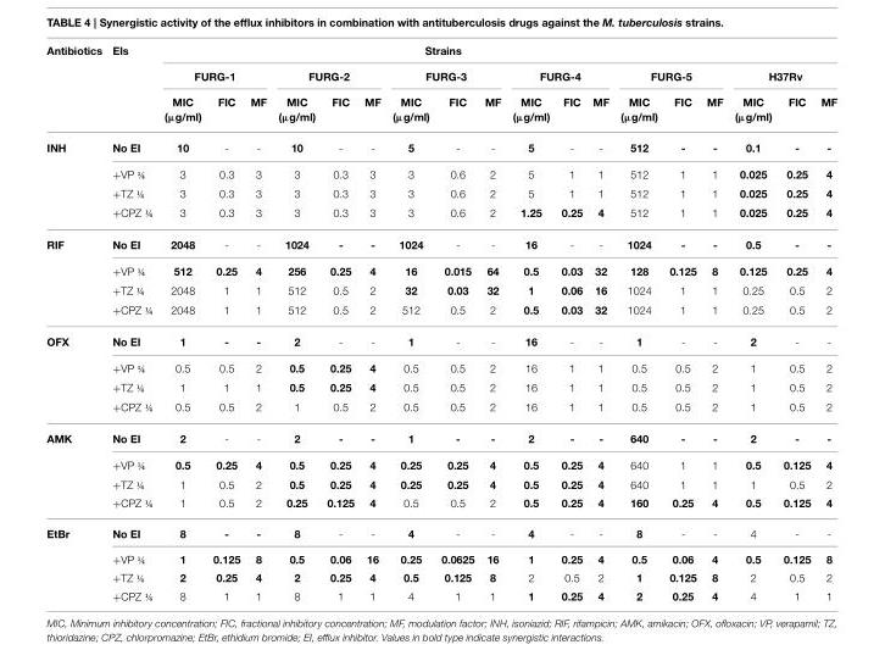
<table><thead><tr><td rowspan="3">Antibiotics</td><td rowspan="3">EIs</td><td colspan="18">Strains</td></tr><tr><td colspan="3">FURG-1</td><td colspan="3">FURG-2</td><td colspan="3">FURG-3</td><td colspan="3">FURG-4</td><td colspan="3">FURG-5</td><td colspan="3">H37Rv</td></tr><tr><td>MIC (µg/ml)</td><td>FIC</td><td>MF</td><td>MIC (µg/ml)</td><td>FIC</td><td>MF</td><td>MIC (µg/ml)</td><td>FIC</td><td>MF</td><td>MIC (µg/ml)</td><td>FIC</td><td>MF</td><td>MIC (µg/ml)</td><td>FIC</td><td>MF</td><td>MIC (µg/ml)</td><td>FIC</td><td>MF</td></tr></thead><tbody><tr><td rowspan="4">INH</td><td>No EI</td><td>10</td><td>-</td><td>-</td><td>10</td><td>-</td><td>-</td><td>5</td><td>-</td><td>-</td><td>5</td><td>-</td><td>-</td><td>512</td><td>-</td><td>-</td><td>0.1</td><td>-</td><td>-</td></tr><tr><td>+VP ¼</td><td>3</td><td>0.3</td><td>3</td><td>3</td><td>0.3</td><td>3</td><td>3</td><td>0.6</td><td>2</td><td>5</td><td>1</td><td>1</td><td>512</td><td>1</td><td>1</td><td>0.025</td><td>0.25</td><td>4</td></tr><tr><td>+TZ ¼</td><td>3</td><td>0.3</td><td>3</td><td>3</td><td>0.3</td><td>3</td><td>3</td><td>0.6</td><td>2</td><td>5</td><td>1</td><td>1</td><td>512</td><td>1</td><td>1</td><td>0.025</td><td>0.25</td><td>4</td></tr><tr><td>+CPZ ¼</td><td>3</td><td>0.3</td><td>3</td><td>3</td><td>0.3</td><td>3</td><td>3</td><td>0.6</td><td>2</td><td>1.25</td><td>0.25</td><td>4</td><td>512</td><td>1</td><td>1</td><td>0.025</td><td>0.25</td><td>4</td></tr><tr><td rowspan="4">RIF</td><td>No EI</td><td>2048</td><td>-</td><td>-</td><td>1024</td><td>-</td><td>-</td><td>1024</td><td>-</td><td>-</td><td>16</td><td>-</td><td>-</td><td>1024</td><td>-</td><td>-</td><td>0.5</td><td>-</td><td>-</td></tr><tr><td>+VP ¼</td><td>512</td><td>0.25</td><td>4</td><td>256</td><td>0.25</td><td>4</td><td>16</td><td>0.015</td><td>64</td><td>0.5</td><td>0.03</td><td>32</td><td>128</td><td>0.125</td><td>8</td><td>0.125</td><td>0.25</td><td>4</td></tr><tr><td>+TZ ¼</td><td>2048</td><td>1</td><td>1</td><td>512</td><td>0.5</td><td>2</td><td>32</td><td>0.03</td><td>32</td><td>1</td><td>0.06</td><td>16</td><td>1024</td><td>1</td><td>1</td><td>0.25</td><td>0.5</td><td>2</td></tr><tr><td>+CPZ ¼</td><td>2048</td><td>1</td><td>1</td><td>512</td><td>0.5</td><td>2</td><td>512</td><td>0.5</td><td>2</td><td>0.5</td><td>0.03</td><td>32</td><td>1024</td><td>1</td><td>1</td><td>0.25</td><td>0.5</td><td>2</td></tr><tr><td rowspan="4">OFX</td><td>No EI</td><td>1</td><td>-</td><td>-</td><td>2</td><td>-</td><td>-</td><td>1</td><td>-</td><td>-</td><td>16</td><td>-</td><td>-</td><td>1</td><td>-</td><td>-</td><td>2</td><td>-</td><td>-</td></tr><tr><td>+VP ¼</td><td>0.5</td><td>0.5</td><td>2</td><td>0.5</td><td>0.25</td><td>4</td><td>0.5</td><td>0.5</td><td>2</td><td>16</td><td>1</td><td>1</td><td>0.5</td><td>0.5</td><td>2</td><td>1</td><td>0.5</td><td>2</td></tr><tr><td>+TZ ¼</td><td>1</td><td>1</td><td>1</td><td>0.5</td><td>0.25</td><td>4</td><td>0.5</td><td>0.5</td><td>2</td><td>16</td><td>1</td><td>1</td><td>0.5</td><td>0.5</td><td>2</td><td>1</td><td>0.5</td><td>2</td></tr><tr><td>+CPZ ¼</td><td>0.5</td><td>0.5</td><td>2</td><td>1</td><td>0.5</td><td>2</td><td>0.5</td><td>0.5</td><td>2</td><td>16</td><td>1</td><td>1</td><td>0.5</td><td>0.5</td><td>2</td><td>1</td><td>0.5</td><td>2</td></tr><tr><td rowspan="4">AMK</td><td>No EI</td><td>2</td><td>-</td><td>-</td><td>2</td><td>-</td><td>-</td><td>1</td><td>-</td><td>-</td><td>2</td><td>-</td><td>-</td><td>640</td><td>-</td><td>-</td><td>2</td><td>-</td><td>-</td></tr><tr><td>+VP ¼</td><td>0.5</td><td>0.25</td><td>4</td><td>0.5</td><td>0.25</td><td>4</td><td>0.25</td><td>0.25</td><td>4</td><td>0.5</td><td>0.25</td><td>4</td><td>640</td><td>1</td><td>1</td><td>0.5</td><td>0.125</td><td>4</td></tr><tr><td>+TZ ¼</td><td>1</td><td>0.5</td><td>2</td><td>0.5</td><td>0.25</td><td>4</td><td>0.25</td><td>0.25</td><td>4</td><td>0.5</td><td>0.25</td><td>4</td><td>640</td><td>1</td><td>1</td><td>1</td><td>0.5</td><td>2</td></tr><tr><td>+CPZ ¼</td><td>1</td><td>0.5</td><td>2</td><td>0.25</td><td>0.125</td><td>4</td><td>0.5</td><td>0.5</td><td>2</td><td>0.5</td><td>0.25</td><td>4</td><td>160</td><td>0.25</td><td>4</td><td>0.5</td><td>0.125</td><td>4</td></tr><tr><td rowspan="4">EtBr</td><td>No EI</td><td>8</td><td>-</td><td>-</td><td>8</td><td>-</td><td>-</td><td>4</td><td>-</td><td>-</td><td>4</td><td>-</td><td>-</td><td>8</td><td>-</td><td>-</td><td>4</td><td>-</td><td>-</td></tr><tr><td>+VP ¼</td><td>1</td><td>0.125</td><td>8</td><td>0.5</td><td>0.06</td><td>16</td><td>0.25</td><td>0.0625</td><td>16</td><td>1</td><td>0.25</td><td>4</td><td>0.5</td><td>0.06</td><td>4</td><td>0.5</td><td>0.125</td><td>8</td></tr><tr><td>+TZ ¼</td><td>2</td><td>0.25</td><td>4</td><td>2</td><td>0.25</td><td>4</td><td>0.5</td><td>0.125</td><td>8</td><td>2</td><td>0.5</td><td>2</td><td>1</td><td>0.125</td><td>8</td><td>2</td><td>0.5</td><td>2</td></tr><tr><td>+CPZ ¼</td><td>8</td><td>1</td><td>1</td><td>8</td><td>1</td><td>1</td><td>4</td><td>1</td><td>1</td><td>1</td><td>0.25</td><td>4</td><td>2</td><td>0.25</td><td>4</td><td>4</td><td>1</td><td>1</td></tr></tbody></table>